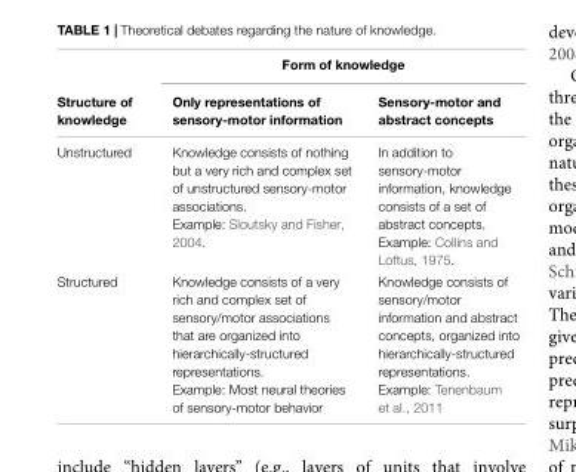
<table><thead><tr><td rowspan="2">Structure of knowledge</td><td colspan="2">Form of knowledge</td></tr><tr><td>Only representations of sensory-motor information</td><td>Sensory-motor and abstract concepts</td></tr></thead><tbody><tr><td>Unstructured</td><td>Knowledge consists of nothing but a very rich and complex set of unstructured sensory-motor associations. Example: Sloutsky and Fisher, 2004.</td><td>In addition to sensory-motor information, knowledge consists of a set of abstract concepts. Example: Collins and Loftus, 1975.</td></tr><tr><td>Structured</td><td>Knowledge consists of a very rich and complex set of sensory/motor associations that are organized into hierarchically-structured representations. Example: Most neural theories of sensory-motor behavior</td><td>Knowledge consists of sensory/motor information and abstract concepts, organized into hierarchically-structured representations. Example: Tenenbaum et al., 2011</td></tr></tbody></table>